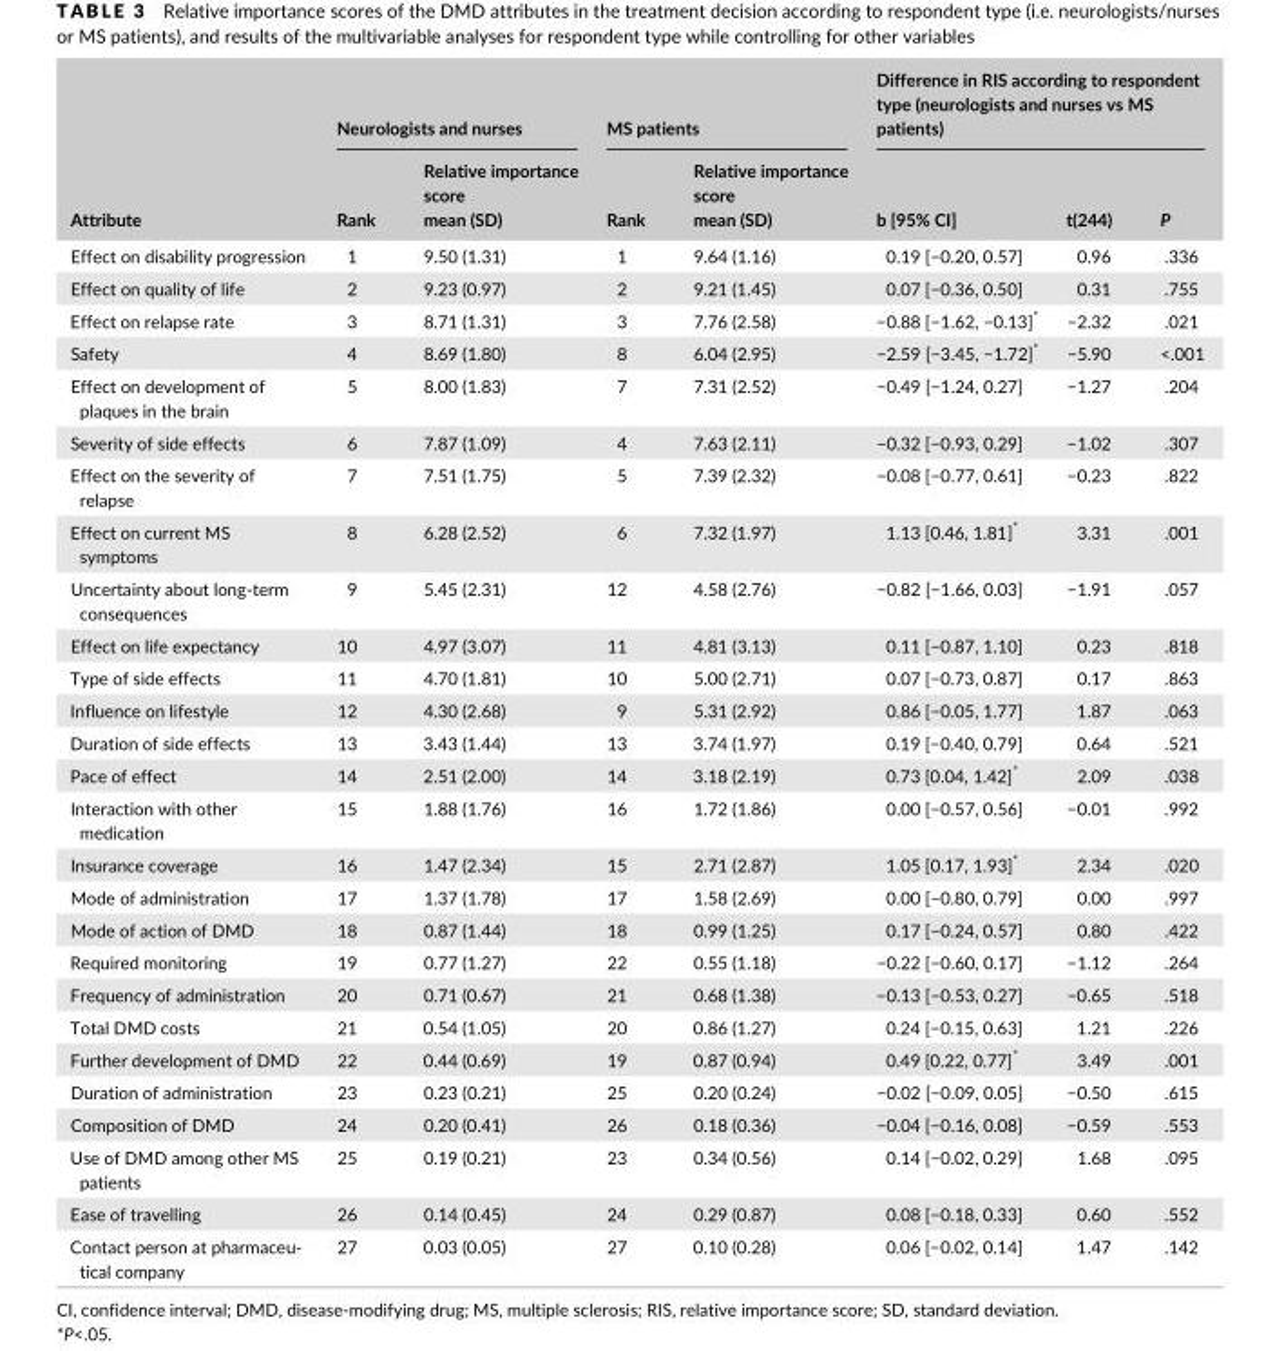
<table><thead><tr><td rowspan="2">Attribute</td><td colspan="2">Neurologists and nurses</td><td colspan="2">MS patients</td><td colspan="3">Difference in RIS according to respondent type (neurologists and nurses vs MS patients)</td></tr><tr><td>Rank</td><td>Relative importance score mean (SD)</td><td>Rank</td><td>Relative importance score mean (SD)</td><td>b [95% CI]</td><td>t(244)</td><td>P</td></tr></thead><tbody><tr><td>Effect on disability progression</td><td>1</td><td>9.50 (1.31)</td><td>1</td><td>9.64 (1.16)</td><td>0.19 [−0.20, 0.57]</td><td>0.96</td><td>.336</td></tr><tr><td>Effect on quality of life</td><td>2</td><td>9.23 (0.97)</td><td>2</td><td>9.21 (1.45)</td><td>0.07 [−0.36, 0.50]</td><td>0.31</td><td>.755</td></tr><tr><td>Effect on relapse rate</td><td>3</td><td>8.71 (1.31)</td><td>3</td><td>7.76 (2.58)</td><td>−0.88 [−1.62, −0.13]*</td><td>−2.32</td><td>.021</td></tr><tr><td>Safety</td><td>4</td><td>8.69 (1.80)</td><td>8</td><td>6.04 (2.95)</td><td>−2.59 [−3.45, −1.72]*</td><td>−5.90</td><td>&lt;.001</td></tr><tr><td>Effect on development of plaques in the brain</td><td>5</td><td>8.00 (1.83)</td><td>7</td><td>7.31 (2.52)</td><td>−0.49 [−1.24, 0.27]</td><td>−1.27</td><td>.204</td></tr><tr><td>Severity of side effects</td><td>6</td><td>7.87 (1.09)</td><td>4</td><td>7.63 (2.11)</td><td>−0.32 [−0.93, 0.29]</td><td>−1.02</td><td>.307</td></tr><tr><td>Effect on the severity of relapse</td><td>7</td><td>7.51 (1.75)</td><td>5</td><td>7.39 (2.32)</td><td>−0.08 [−0.77, 0.61]</td><td>−0.23</td><td>.822</td></tr><tr><td>Effect on current MS symptoms</td><td>8</td><td>6.28 (2.52)</td><td>6</td><td>7.32 (1.97)</td><td>1.13 [0.46, 1.81]*</td><td>3.31</td><td>.001</td></tr><tr><td>Uncertainty about long- term consequences</td><td>9</td><td>5.45 (2.31)</td><td>12</td><td>4.58 (2.76)</td><td>−0.82 [−1.66, 0.03]</td><td>−1.91</td><td>.057</td></tr><tr><td>Effect on life expectancy</td><td>10</td><td>4.97 (3.07)</td><td>11</td><td>4.81 (3.13)</td><td>0.11 [−0.87, 1.10]</td><td>0.23</td><td>.818</td></tr><tr><td>Type of side effects</td><td>11</td><td>4.70 (1.81)</td><td>10</td><td>5.00 (2.71)</td><td>0.07 [−0.73, 0.87]</td><td>0.17</td><td>.863</td></tr><tr><td>Influence on lifestyle</td><td>12</td><td>4.30 (2.68)</td><td>9</td><td>5.31 (2.92)</td><td>0.86 [−0.05, 1.77]</td><td>1.87</td><td>.063</td></tr><tr><td>Duration of side effects</td><td>13</td><td>3.43 (1.44)</td><td>13</td><td>3.74 (1.97)</td><td>0.19 [−0.40, 0.79]</td><td>0.64</td><td>.521</td></tr><tr><td>Pace of effect</td><td>14</td><td>2.51 (2.00)</td><td>14</td><td>3.18 (2.19)</td><td>0.73 [0.04, 1.42]*</td><td>2.09</td><td>.038</td></tr><tr><td>Interaction with other medication</td><td>15</td><td>1.88 (1.76)</td><td>16</td><td>1.72 (1.86)</td><td>0.00 [−0.57, 0.56]</td><td>−0.01</td><td>.992</td></tr><tr><td>Insurance coverage</td><td>16</td><td>1.47 (2.34)</td><td>15</td><td>2.71 (2.87)</td><td>1.05 [0.17, 1.93]*</td><td>2.34</td><td>.020</td></tr><tr><td>Mode of administration</td><td>17</td><td>1.37 (1.78)</td><td>17</td><td>1.58 (2.69)</td><td>0.00 [−0.80, 0.79]</td><td>0.00</td><td>.997</td></tr><tr><td>Mode of action of DMD</td><td>18</td><td>0.87 (1.44)</td><td>18</td><td>0.99 (1.25)</td><td>0.17 [−0.24, 0.57]</td><td>0.80</td><td>.422</td></tr><tr><td>Required monitoring</td><td>19</td><td>0.77 (1.27)</td><td>22</td><td>0.55 (1.18)</td><td>−0.22 [−0.60, 0.17]</td><td>−1.12</td><td>.264</td></tr><tr><td>Frequency of administration</td><td>20</td><td>0.71 (0.67)</td><td>21</td><td>0.68 (1.38)</td><td>−0.13 [−0.53, 0.27]</td><td>−0.65</td><td>.518</td></tr><tr><td>Total DMD costs</td><td>21</td><td>0.54 (1.05)</td><td>20</td><td>0.86 (1.27)</td><td>0.24 [−0.15, 0.63]</td><td>1.21</td><td>.226</td></tr><tr><td>Further development of DMD</td><td>22</td><td>0.44 (0.69)</td><td>19</td><td>0.87 (0.94)</td><td>0.49 [0.22, 0.77]*</td><td>3.49</td><td>.001</td></tr><tr><td>Duration of administration</td><td>23</td><td>0.23 (0.21)</td><td>25</td><td>0.20 (0.24)</td><td>−0.02 [−0.09, 0.05]</td><td>−0.50</td><td>.615</td></tr><tr><td>Composition of DMD</td><td>24</td><td>0.20 (0.41)</td><td>26</td><td>0.18 (0.36)</td><td>−0.04 [−0.16, 0.08]</td><td>−0.59</td><td>.553</td></tr><tr><td>Use of DMD among other MS patients</td><td>25</td><td>0.19 (0.21)</td><td>23</td><td>0.34 (0.56)</td><td>0.14 [−0.02, 0.29]</td><td>1.68</td><td>.095</td></tr><tr><td>Ease of travelling</td><td>26</td><td>0.14 (0.45)</td><td>24</td><td>0.29 (0.87)</td><td>0.08 [−0.18, 0.33]</td><td>0.60</td><td>.552</td></tr><tr><td>Contact person at pharmaceu- tical company</td><td>27</td><td>0.03 (0.05)</td><td>27</td><td>0.10 (0.28)</td><td>0.06 [−0.02, 0.14]</td><td>1.47</td><td>.142</td></tr></tbody></table>